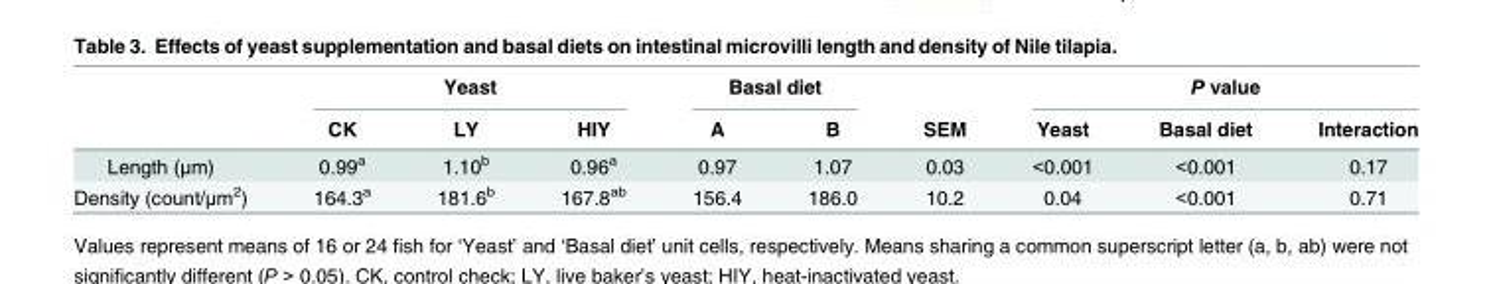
<table><thead><tr><td rowspan="2"></td><td colspan="3">Yeast</td><td colspan="2">Basal diet</td><td rowspan="2">SEM</td><td colspan="3">P value</td></tr><tr><td>CK</td><td>LY</td><td>HIY</td><td>A</td><td>B</td><td>Yeast</td><td>Basal diet</td><td>Interaction</td></tr></thead><tbody><tr><td>Length (μm)</td><td>0.99<sup>a</sup></td><td>1.10<sup>b</sup></td><td>0.96<sup>a</sup></td><td>0.97</td><td>1.07</td><td>0.03</td><td>&lt;0.001</td><td>&lt;0.001</td><td>0.17</td></tr><tr><td>Density (count/μm<sup>2</sup>)</td><td>164.3<sup>a</sup></td><td>181.6<sup>b</sup></td><td>167.8<sup>ab</sup></td><td>156.4</td><td>186.0</td><td>10.2</td><td>0.04</td><td>&lt;0.001</td><td>0.71</td></tr></tbody></table>